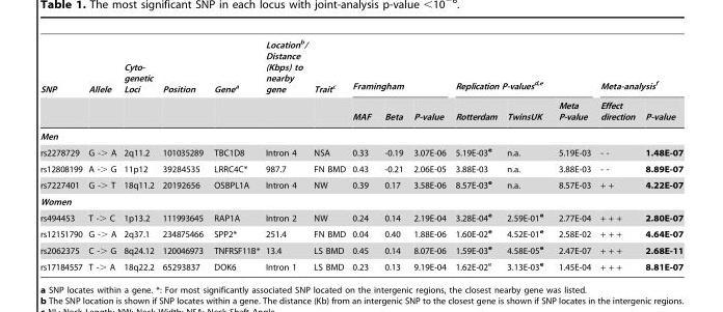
<table><thead><tr><td rowspan="2">SNP</td><td rowspan="2">Allele</td><td rowspan="2">Cyto- genetic Loci</td><td rowspan="2">Position</td><td rowspan="2">Gene<sup>a</sup></td><td rowspan="2">Location<sup>b</sup>/ Distance (Kbps) to nearby gene</td><td rowspan="2">Trait<sup>c</sup></td><td colspan="3">Framingham</td><td colspan="3">Replication P-valuesd,e</td><td colspan="2">Meta-analysis<sup>f</sup></td></tr><tr><td>MAF</td><td>Beta</td><td>P-value</td><td>Rotterdam</td><td>TwinsUK</td><td>Meta P-value</td><td>Effect direction</td><td>P-value</td></tr></thead><tbody><tr><td colspan="15">Men</td></tr><tr><td>rs2278729</td><td>G -&gt; A</td><td>2q11.2</td><td>101035289</td><td>TBC1D8</td><td>Intron 4</td><td>NSA</td><td>0.33</td><td>-0.19</td><td>3.07E-06</td><td>5.19E-03<sup>e</sup></td><td>n.a.</td><td>5.19E-03</td><td>- -</td><td>1.48E-07</td></tr><tr><td>rs12808199</td><td>A -&gt; G</td><td>11p12</td><td>39284535</td><td>LRRC4C*</td><td>987.7</td><td>FN BMD</td><td>0.43</td><td>-0.21</td><td>2.06E-05</td><td>3.88E-03</td><td>n.a.</td><td>3.88E-03</td><td>- -</td><td>8.89E-07</td></tr><tr><td>rs7227401</td><td>G -&gt; T</td><td>18q11.2</td><td>20192656</td><td>OSBPL1A</td><td>Intron 4</td><td>NW</td><td>0.39</td><td>0.17</td><td>3.58E-06</td><td>8.57E-03<sup>e</sup></td><td>n.a.</td><td>8.57E-03</td><td>+ +</td><td>4.22E-07</td></tr><tr><td colspan="15">Women</td></tr><tr><td>rs494453</td><td>T -&gt; C</td><td>1p13.2</td><td>111993645</td><td>RAP1A</td><td>Intron 2</td><td>NW</td><td>0.24</td><td>0.14</td><td>2.19E-04</td><td>3.28E-04<sup>e</sup></td><td>2.59E-01<sup>e</sup></td><td>2.77E-04</td><td>+ + +</td><td>2.80E-07</td></tr><tr><td>rs12151790</td><td>G -&gt; A</td><td>2q37.1</td><td>234875466</td><td>SPP2*</td><td>251.4</td><td>FN BMD</td><td>0.04</td><td>0.40</td><td>1.88E-06</td><td>1.60E-02<sup>e</sup></td><td>4.52E-01<sup>e</sup></td><td>2.58E-02</td><td>+ + +</td><td>4.64E-07</td></tr><tr><td>rs2062375</td><td>C -&gt; G</td><td>8q24.12</td><td>120046973</td><td>TNFRSF11B*</td><td>13.4</td><td>LS BMD</td><td>0.45</td><td>0.14</td><td>8.07E-06</td><td>1.59E-03<sup>e</sup></td><td>4.58E-05<sup>e</sup></td><td>2.47E-07</td><td>+ + +</td><td>2.68E-11</td></tr><tr><td>rs17184557</td><td>T -&gt; A</td><td>18q22.2</td><td>65293837</td><td>DOK6</td><td>Intron 1</td><td>LS BMD</td><td>0.23</td><td>0.13</td><td>9.19E-04</td><td>1.62E-02<sup>e</sup></td><td>3.13E-03<sup>e</sup></td><td>1.45E-04</td><td>+ + +</td><td>8.81E-07</td></tr></tbody></table>